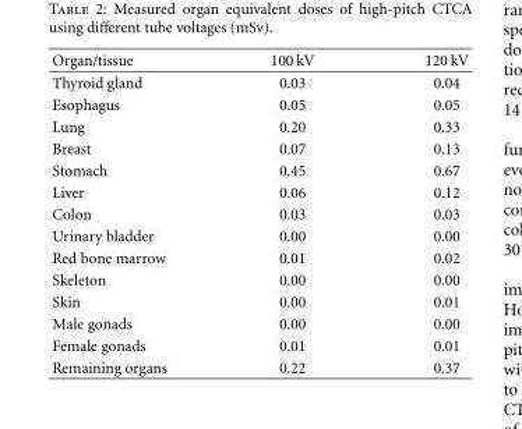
<table><thead><tr><td>Organ/tissue</td><td>100 kV</td><td>120 kV</td></tr></thead><tbody><tr><td>Thyroid gland</td><td>0.03</td><td>0.04</td></tr><tr><td>Esophagus</td><td>0.05</td><td>0.05</td></tr><tr><td>Lung</td><td>0.20</td><td>0.33</td></tr><tr><td>Breast</td><td>0.07</td><td>0.13</td></tr><tr><td>Stomach</td><td>0.45</td><td>0.67</td></tr><tr><td>Liver</td><td>0.06</td><td>0.12</td></tr><tr><td>Colon</td><td>0.03</td><td>0.03</td></tr><tr><td>Urinary bladder</td><td>0.00</td><td>0.00</td></tr><tr><td>Red bone marrow</td><td>0.01</td><td>0.02</td></tr><tr><td>Skeleton</td><td>0.00</td><td>0.00</td></tr><tr><td>Skin</td><td>0.00</td><td>0.01</td></tr><tr><td>Male gonads</td><td>0.00</td><td>0.00</td></tr><tr><td>Female gonads</td><td>0.01</td><td>0.01</td></tr><tr><td>Remaining organs</td><td>0.22</td><td>0.37</td></tr></tbody></table>